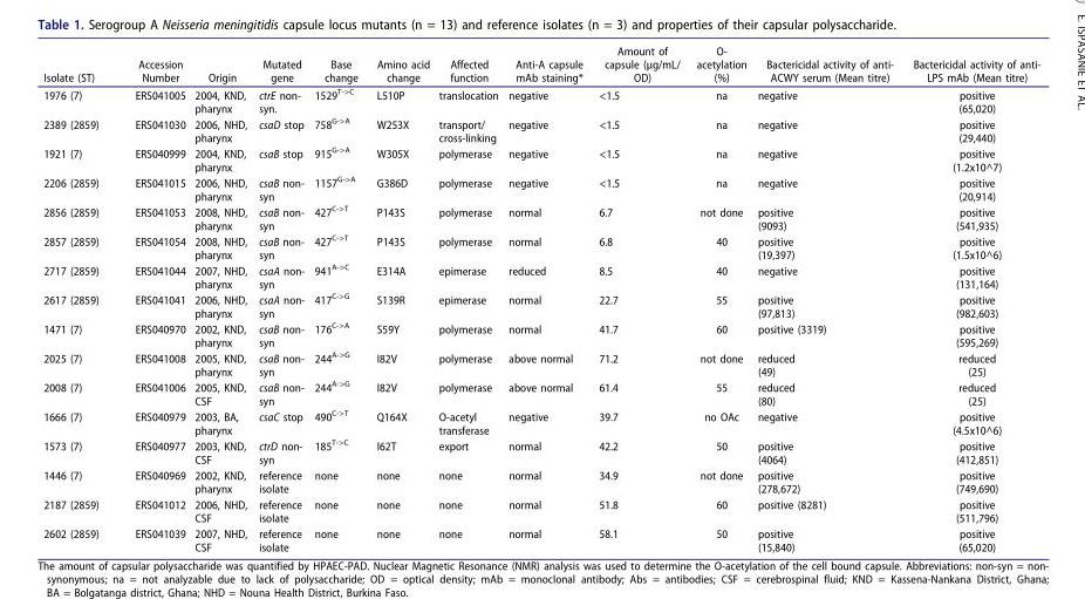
<table><thead><tr><td>Isolate (ST)</td><td>Accession Number</td><td>Origin</td><td>Mutated gene</td><td>Base change</td><td>Amino acid change</td><td>Affected function</td><td>Anti-A capsule mAb staining*</td><td>Amount of capsule (µg/mL/ OD)</td><td>O- acetylation (%)</td><td>Bactericidal activity of anti- ACWY serum (Mean titre)</td><td>Bactericidal activity of anti- LPS mAb (Mean titre)</td></tr></thead><tbody><tr><td>1976 (7)</td><td>ERS041005</td><td>2004, KND, pharynx</td><td>ctrE non- syn.</td><td>1529<sup>T-&gt;C</sup></td><td>L510P</td><td>translocation</td><td>negative</td><td>&lt;1.5</td><td>na</td><td>negative</td><td>positive (65,020)</td></tr><tr><td>2389 (2859)</td><td>ERS041030</td><td>2006, NHD, pharynx</td><td>csaD stop</td><td>758<sup>G-&gt;A</sup></td><td>W253X</td><td>transport/ cross-linking</td><td>negative</td><td>&lt;1.5</td><td>na</td><td>negative</td><td>positive (29,440)</td></tr><tr><td>1921 (7)</td><td>ERS040999</td><td>2004, KND, pharynx</td><td>csaB stop</td><td>915<sup>G-&gt;A</sup></td><td>W305X</td><td>polymerase</td><td>negative</td><td>&lt;1.5</td><td>na</td><td>negative</td><td>positive (1.2x10^7)</td></tr><tr><td>2206 (2859)</td><td>ERS041015</td><td>2006, NHD, pharynx</td><td>csaB non- syn</td><td>1157<sup>G-&gt;A</sup></td><td>G386D</td><td>polymerase</td><td>negative</td><td>&lt;1.5</td><td>na</td><td>negative</td><td>positive (20,914)</td></tr><tr><td>2856 (2859)</td><td>ERS041053</td><td>2008, NHD, pharynx</td><td>csaB non- syn</td><td>427<sup>C-&gt;T</sup></td><td>P143S</td><td>polymerase</td><td>normal</td><td>6.7</td><td>not done</td><td>positive (9093)</td><td>positive (541,935)</td></tr><tr><td>2857 (2859)</td><td>ERS041054</td><td>2008, NHD, pharynx</td><td>csaB non- syn</td><td>427<sup>C-&gt;T</sup></td><td>P143S</td><td>polymerase</td><td>normal</td><td>6.8</td><td>40</td><td>positive (19,397)</td><td>positive (1.5x10^6)</td></tr><tr><td>2717 (2859)</td><td>ERS041044</td><td>2007, NHD, pharynx</td><td>csaA non- syn</td><td>941<sup>A-&gt;C</sup></td><td>E314A</td><td>epimerase</td><td>reduced</td><td>8.5</td><td>40</td><td>negative</td><td>positive (131,164)</td></tr><tr><td>2617 (2859)</td><td>ERS041041</td><td>2006, NHD, pharynx</td><td>csaA non- syn</td><td>417<sup>C-&gt;G</sup></td><td>S139R</td><td>epimerase</td><td>normal</td><td>22.7</td><td>55</td><td>positive (97,813)</td><td>positive (982,603)</td></tr><tr><td>1471 (7)</td><td>ERS040970</td><td>2002, KND, pharynx</td><td>csaB non- syn</td><td>176<sup>C-&gt;A</sup></td><td>S59Y</td><td>polymerase</td><td>normal</td><td>41.7</td><td>60</td><td>positive (3319)</td><td>positive (595,269)</td></tr><tr><td>2025 (7)</td><td>ERS041008</td><td>2005, KND, pharynx</td><td>csaB non- syn</td><td>244<sup>A-&gt;G</sup></td><td>I82V</td><td>polymerase</td><td>above normal</td><td>71.2</td><td>not done</td><td>reduced (49)</td><td>reduced (25)</td></tr><tr><td>2008 (7)</td><td>ERS041006</td><td>2005, KND, CSF</td><td>csaB non- syn</td><td>244<sup>A-&gt;G</sup></td><td>I82V</td><td>polymerase</td><td>above normal</td><td>61.4</td><td>55</td><td>reduced (80)</td><td>reduced (25)</td></tr><tr><td>1666 (7)</td><td>ERS040979</td><td>2003, BA, pharynx</td><td>csaC stop</td><td>490<sup>C-&gt;T</sup></td><td>Q164X</td><td>O-acetyl transferase</td><td>negative</td><td>39.7</td><td>no OAc</td><td>negative</td><td>positive (4.5x10^6)</td></tr><tr><td>1573 (7)</td><td>ERS040977</td><td>2003, KND, CSF</td><td>ctrD non- syn</td><td>185<sup>T-&gt;C</sup></td><td>I62T</td><td>export</td><td>normal</td><td>42.2</td><td>50</td><td>positive (4064)</td><td>positive (412,851)</td></tr><tr><td>1446 (7)</td><td>ERS040969</td><td>2002, KND, pharynx</td><td>reference isolate</td><td>none</td><td>none</td><td>none</td><td>normal</td><td>34.9</td><td>not done</td><td>positive (278,672)</td><td>positive (749,690)</td></tr><tr><td>2187 (2859)</td><td>ERS041012</td><td>2006, NHD, CSF</td><td>reference isolate</td><td>none</td><td>none</td><td>none</td><td>normal</td><td>51.8</td><td>60</td><td>positive (8281)</td><td>positive (511,796)</td></tr><tr><td>2602 (2859)</td><td>ERS041039</td><td>2007, NHD, CSF</td><td>reference isolate</td><td>none</td><td>none</td><td>none</td><td>normal</td><td>58.1</td><td>50</td><td>positive (15,840)</td><td>positive (65,020)</td></tr></tbody></table>